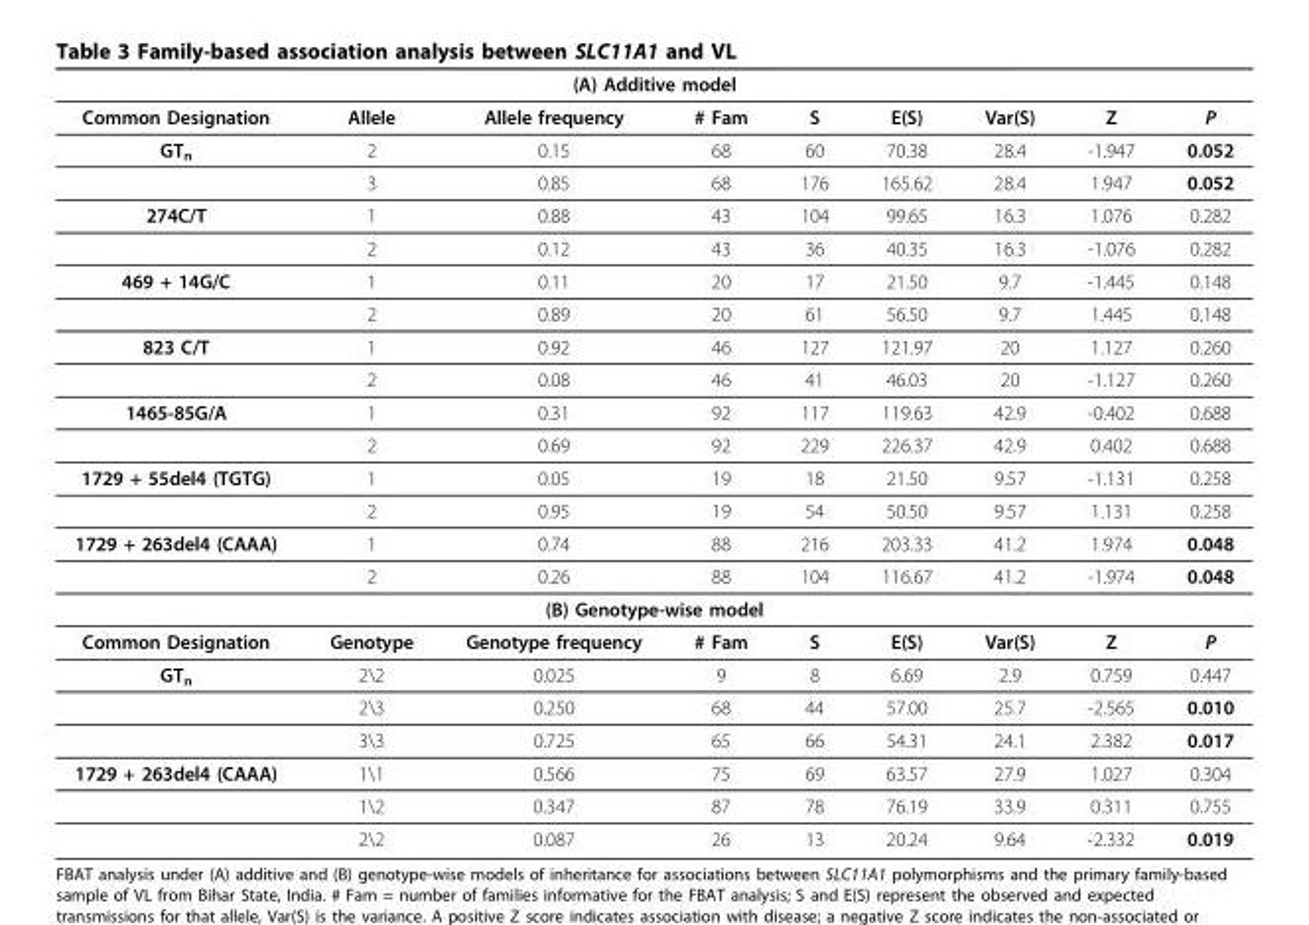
<table><thead><tr><td colspan="9">(A) Additive model</td></tr><tr><td>Common Designation</td><td>Allele</td><td>Allele frequency</td><td># Fam</td><td>S</td><td>E(S)</td><td>Var(S)</td><td>Z</td><td>P</td></tr></thead><tbody><tr><td rowspan="2">GT<sub>n</sub></td><td>2</td><td>0.15</td><td>68</td><td>60</td><td>70.38</td><td>28.4</td><td>-1.947</td><td>0.052</td></tr><tr><td>3</td><td>0.85</td><td>68</td><td>176</td><td>165.62</td><td>28.4</td><td>1.947</td><td>0.052</td></tr><tr><td rowspan="2">274C/T</td><td>1</td><td>0.88</td><td>43</td><td>104</td><td>99.65</td><td>16.3</td><td>1.076</td><td>0.282</td></tr><tr><td>2</td><td>0.12</td><td>43</td><td>36</td><td>40.35</td><td>16.3</td><td>-1.076</td><td>0.282</td></tr><tr><td rowspan="2">469 + 14G/C</td><td>1</td><td>0.11</td><td>20</td><td>17</td><td>21.50</td><td>9.7</td><td>-1.445</td><td>0.148</td></tr><tr><td>2</td><td>0.89</td><td>20</td><td>61</td><td>56.50</td><td>9.7</td><td>1.445</td><td>0.148</td></tr><tr><td rowspan="2">823 C/T</td><td>1</td><td>0.92</td><td>46</td><td>127</td><td>121.97</td><td>20</td><td>1.127</td><td>0.260</td></tr><tr><td>2</td><td>0.08</td><td>46</td><td>41</td><td>46.03</td><td>20</td><td>-1.127</td><td>0.260</td></tr><tr><td rowspan="2">1465-85G/A</td><td>1</td><td>0.31</td><td>92</td><td>117</td><td>119.63</td><td>42.9</td><td>-0.402</td><td>0.688</td></tr><tr><td>2</td><td>0.69</td><td>92</td><td>229</td><td>226.37</td><td>42.9</td><td>0.402</td><td>0.688</td></tr><tr><td rowspan="2">1729 + 55del4 (TGTG)</td><td>1</td><td>0.05</td><td>19</td><td>18</td><td>21.50</td><td>9.57</td><td>-1.131</td><td>0.258</td></tr><tr><td>2</td><td>0.95</td><td>19</td><td>54</td><td>50.50</td><td>9.57</td><td>1.131</td><td>0.258</td></tr><tr><td rowspan="2">1729 + 263del4 (CAAA)</td><td>1</td><td>0.74</td><td>88</td><td>216</td><td>203.33</td><td>41.2</td><td>1.974</td><td>0.048</td></tr><tr><td>2</td><td>0.26</td><td>88</td><td>104</td><td>116.67</td><td>41.2</td><td>-1.974</td><td>0.048</td></tr><tr><td colspan="9">(B) Genotype-wise model</td></tr><tr><td>Common Designation</td><td>Genotype</td><td>Genotype frequency</td><td># Fam</td><td>S</td><td>E(S)</td><td>Var(S)</td><td>Z</td><td>P</td></tr><tr><td rowspan="3">GT<sub>n</sub></td><td>2\2</td><td>0.025</td><td>9</td><td>8</td><td>6.69</td><td>2.9</td><td>0.759</td><td>0.447</td></tr><tr><td>2\3</td><td>0.250</td><td>68</td><td>44</td><td>57.00</td><td>25.7</td><td>-2.565</td><td>0.010</td></tr><tr><td>3\3</td><td>0.725</td><td>65</td><td>66</td><td>54.31</td><td>24.1</td><td>2.382</td><td>0.017</td></tr><tr><td rowspan="3">1729 + 263del4 (CAAA)</td><td>1\1</td><td>0.566</td><td>75</td><td>69</td><td>63.57</td><td>27.9</td><td>1.027</td><td>0.304</td></tr><tr><td>1\2</td><td>0.347</td><td>87</td><td>78</td><td>76.19</td><td>33.9</td><td>0.311</td><td>0.755</td></tr><tr><td>2\2</td><td>0.087</td><td>26</td><td>13</td><td>20.24</td><td>9.64</td><td>-2.332</td><td>0.019</td></tr></tbody></table>